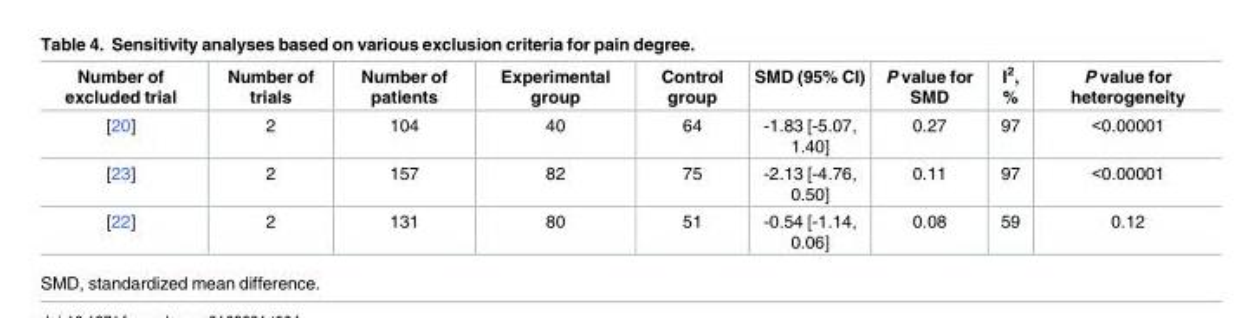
<table><thead><tr><td>Number of excluded trial</td><td>Number of trials</td><td>Number of patients</td><td>Experimental group</td><td>Control group</td><td>SMD (95% CI)</td><td>P value for SMD</td><td>I<sup>2</sup>, %</td><td>P value for heterogeneity</td></tr></thead><tbody><tr><td>[20]</td><td>2</td><td>104</td><td>40</td><td>64</td><td>-1.83 [-5.07, 1.40]</td><td>0.27</td><td>97</td><td>&lt;0.00001</td></tr><tr><td>[23]</td><td>2</td><td>157</td><td>82</td><td>75</td><td>-2.13 [-4.76, 0.50]</td><td>0.11</td><td>97</td><td>&lt;0.00001</td></tr><tr><td>[22]</td><td>2</td><td>131</td><td>80</td><td>51</td><td>-0.54 [-1.14, 0.06]</td><td>0.08</td><td>59</td><td>0.12</td></tr></tbody></table>